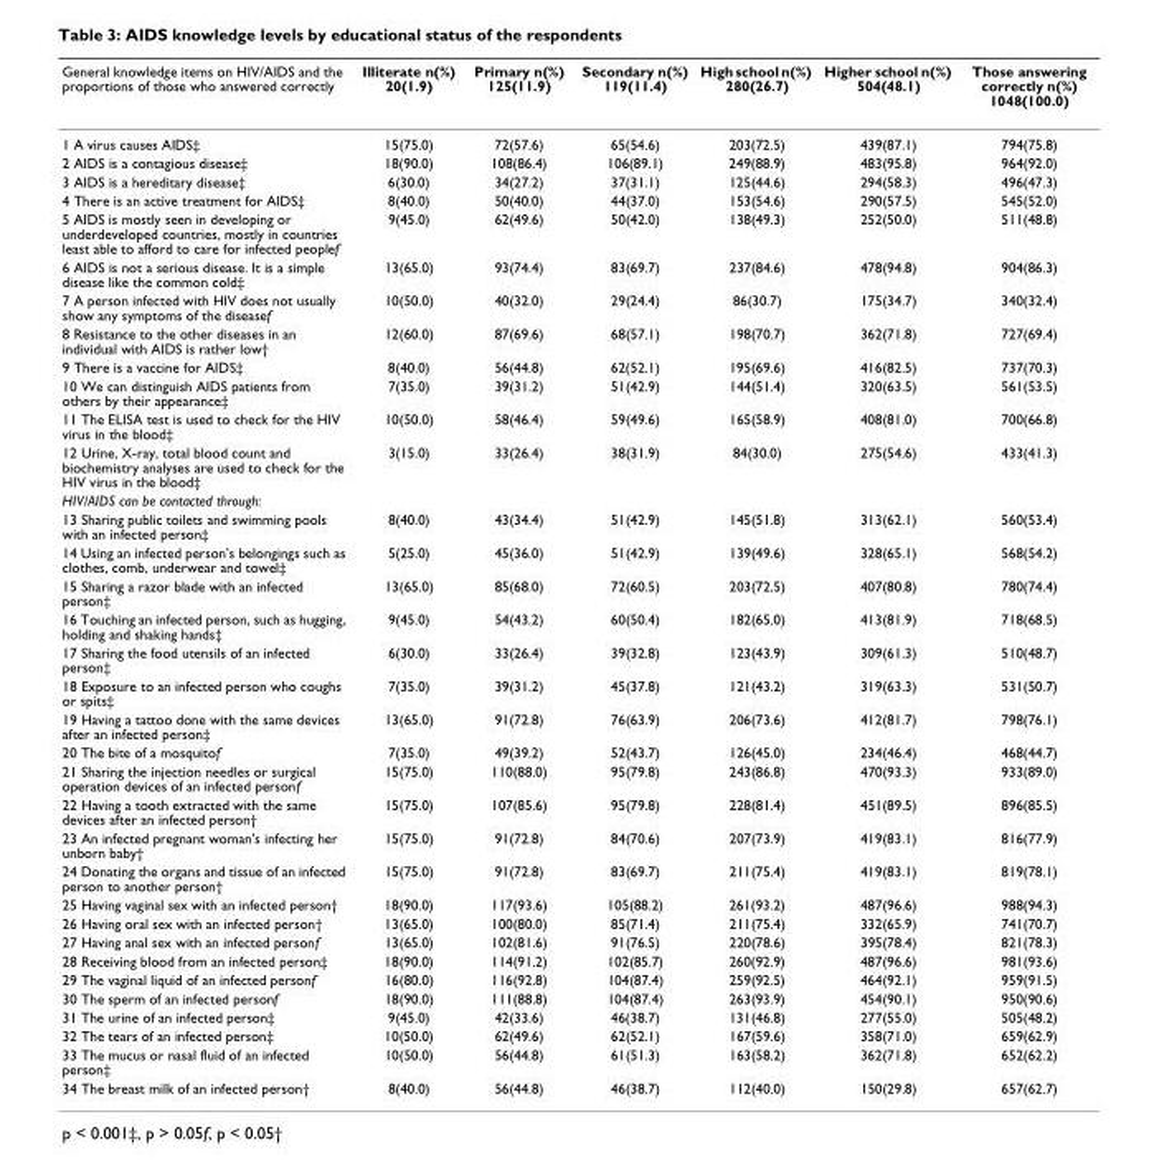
<table><thead><tr><td>General knowledge items on HIV/AIDS and the proportions of those who answered correctly</td><td>Illiterate n(%) 20(1.9)</td><td>Primary n(%) 125(11.9)</td><td>Secondary n(%) 119(11.4)</td><td>High school n(%) 280(26.7)</td><td>Higher school n(%) 504(48.1)</td><td>Those answering correctly n(%) 1048(100.0)</td></tr></thead><tbody><tr><td>1 A virus causes AIDS‡</td><td>15(75.0)</td><td>72(57.6)</td><td>65(54.6)</td><td>203(72.5)</td><td>439(87.1)</td><td>794(75.8)</td></tr><tr><td>2 AIDS is a contagious disease‡</td><td>18(90.0)</td><td>108(86.4)</td><td>106(89.1)</td><td>249(88.9)</td><td>483(95.8)</td><td>964(92.0)</td></tr><tr><td>3 AIDS is a hereditary disease‡</td><td>6(30.0)</td><td>34(27.2)</td><td>37(31.1)</td><td>125(44.6)</td><td>294(58.3)</td><td>496(47.3)</td></tr><tr><td>4 There is an active treatment for AIDS‡</td><td>8(40.0)</td><td>50(40.0)</td><td>44(37.0)</td><td>153(54.6)</td><td>290(57.5)</td><td>545(52.0)</td></tr><tr><td>5 AIDS is mostly seen in developing or underdeveloped countries, mostly in countries least able to afford to care for infected peoplef</td><td>9(45.0)</td><td>62(49.6)</td><td>50(42.0)</td><td>138(49.3)</td><td>252(50.0)</td><td>511(48.8)</td></tr><tr><td>6 AIDS is not a serious disease. It is a simple disease like the common cold‡</td><td>13(65.0)</td><td>93(74.4)</td><td>83(69.7)</td><td>237(84.6)</td><td>478(94.8)</td><td>904(86.3)</td></tr><tr><td>7 A person infected with HIV does not usually show any symptoms of the diseasef</td><td>10(50.0)</td><td>40(32.0)</td><td>29(24.4)</td><td>86(30.7)</td><td>175(34.7)</td><td>340(32.4)</td></tr><tr><td>8 Resistance to the other diseases in an individual with AIDS is rather low†</td><td>12(60.0)</td><td>87(69.6)</td><td>68(57.1)</td><td>198(70.7)</td><td>362(71.8)</td><td>727(69.4)</td></tr><tr><td>9 There is a vaccine for AIDS‡</td><td>8(40.0)</td><td>56(44.8)</td><td>62(52.1)</td><td>195(69.6)</td><td>416(82.5)</td><td>737(70.3)</td></tr><tr><td>10 We can distinguish AIDS patients from others by their appearance‡</td><td>7(35.0)</td><td>39(31.2)</td><td>51(42.9)</td><td>144(51.4)</td><td>320(63.5)</td><td>561(53.5)</td></tr><tr><td>11 The ELISA test is used to check for the HIV virus in the blood‡</td><td>10(50.0)</td><td>58(46.4)</td><td>59(49.6)</td><td>165(58.9)</td><td>408(81.0)</td><td>700(66.8)</td></tr><tr><td>12 Urine, X-ray, total blood count and biochemistry analyses are used to check for the HIV virus in the blood‡</td><td>3(15.0)</td><td>33(26.4)</td><td>38(31.9)</td><td>84(30.0)</td><td>275(54.6)</td><td>433(41.3)</td></tr><tr><td colspan="7">HIV/AIDS can be contacted through:</td></tr><tr><td>13 Sharing public toilets and swimming pools with an infected person‡</td><td>8(40.0)</td><td>43(34.4)</td><td>51(42.9)</td><td>145(51.8)</td><td>313(62.1)</td><td>560(53.4)</td></tr><tr><td>14 Using an infected person&#x27;s belongings such as clothes, comb, underwear and towel‡</td><td>5(25.0)</td><td>45(36.0)</td><td>51(42.9)</td><td>139(49.6)</td><td>328(65.1)</td><td>568(54.2)</td></tr><tr><td>15 Sharing a razor blade with an infected person‡</td><td>13(65.0)</td><td>85(68.0)</td><td>72(60.5)</td><td>203(72.5)</td><td>407(80.8)</td><td>780(74.4)</td></tr><tr><td>16 Touching an infected person, such as hugging, holding and shaking hands‡</td><td>9(45.0)</td><td>54(43.2)</td><td>60(50.4)</td><td>182(65.0)</td><td>413(81.9)</td><td>718(68.5)</td></tr><tr><td>17 Sharing the food utensils of an infected person‡</td><td>6(30.0)</td><td>33(26.4)</td><td>39(32.8)</td><td>123(43.9)</td><td>309(61.3)</td><td>510(48.7)</td></tr><tr><td>18 Exposure to an infected person who coughs or spits‡</td><td>7(35.0)</td><td>39(31.2)</td><td>45(37.8)</td><td>121(43.2)</td><td>319(63.3)</td><td>531(50.7)</td></tr><tr><td>19 Having a tattoo done with the same devices after an infected person‡</td><td>13(65.0)</td><td>91(72.8)</td><td>76(63.9)</td><td>206(73.6)</td><td>412(81.7)</td><td>798(76.1)</td></tr><tr><td>20 The bite of a mosquitof</td><td>7(35.0)</td><td>49(39.2)</td><td>52(43.7)</td><td>126(45.0)</td><td>234(46.4)</td><td>468(44.7)</td></tr><tr><td>21 Sharing the injection needles or surgical operation devices of an infected personf</td><td>15(75.0)</td><td>110(88.0)</td><td>95(79.8)</td><td>243(86.8)</td><td>470(93.3)</td><td>933(89.0)</td></tr><tr><td>22 Having a tooth extracted with the same devices after an infected person†</td><td>15(75.0)</td><td>107(85.6)</td><td>95(79.8)</td><td>228(81.4)</td><td>451(89.5)</td><td>896(85.5)</td></tr><tr><td>23 An infected pregnant woman&#x27;s infecting her unborn baby†</td><td>15(75.0)</td><td>91(72.8)</td><td>84(70.6)</td><td>207(73.9)</td><td>419(83.1)</td><td>816(77.9)</td></tr><tr><td>24 Donating the organs and tissue of an infected person to another person†</td><td>15(75.0)</td><td>91(72.8)</td><td>83(69.7)</td><td>211(75.4)</td><td>419(83.1)</td><td>819(78.1)</td></tr><tr><td>25 Having vaginal sex with an infected person†</td><td>18(90.0)</td><td>117(93.6)</td><td>105(88.2)</td><td>261(93.2)</td><td>487(96.6)</td><td>988(94.3)</td></tr><tr><td>26 Having oral sex with an infected person†</td><td>13(65.0)</td><td>100(80.0)</td><td>85(71.4)</td><td>211(75.4)</td><td>332(65.9)</td><td>741(70.7)</td></tr><tr><td>27 Having anal sex with an infected personf</td><td>13(65.0)</td><td>102(81.6)</td><td>91(76.5)</td><td>220(78.6)</td><td>395(78.4)</td><td>821(78.3)</td></tr><tr><td>28 Receiving blood from an infected person‡</td><td>18(90.0)</td><td>114(91.2)</td><td>102(85.7)</td><td>260(92.9)</td><td>487(96.6)</td><td>981(93.6)</td></tr><tr><td>29 The vaginal liquid of an infected personf</td><td>16(80.0)</td><td>116(92.8)</td><td>104(87.4)</td><td>259(92.5)</td><td>464(92.1)</td><td>959(91.5)</td></tr><tr><td>30 The sperm of an infected personf</td><td>18(90.0)</td><td>111(88.8)</td><td>104(87.4)</td><td>263(93.9)</td><td>454(90.1)</td><td>950(90.6)</td></tr><tr><td>31 The urine of an infected person‡</td><td>9(45.0)</td><td>42(33.6)</td><td>46(38.7)</td><td>131(46.8)</td><td>277(55.0)</td><td>505(48.2)</td></tr><tr><td>32 The tears of an infected person‡</td><td>10(50.0)</td><td>62(49.6)</td><td>62(52.1)</td><td>167(59.6)</td><td>358(71.0)</td><td>659(62.9)</td></tr><tr><td>33 The mucus or nasal fluid of an infected person‡</td><td>10(50.0)</td><td>56(44.8)</td><td>61(51.3)</td><td>163(58.2)</td><td>362(71.8)</td><td>652(62.2)</td></tr><tr><td>34 The breast milk of an infected person†</td><td>8(40.0)</td><td>56(44.8)</td><td>46(38.7)</td><td>112(40.0)</td><td>150(29.8)</td><td>657(62.7)</td></tr></tbody></table>